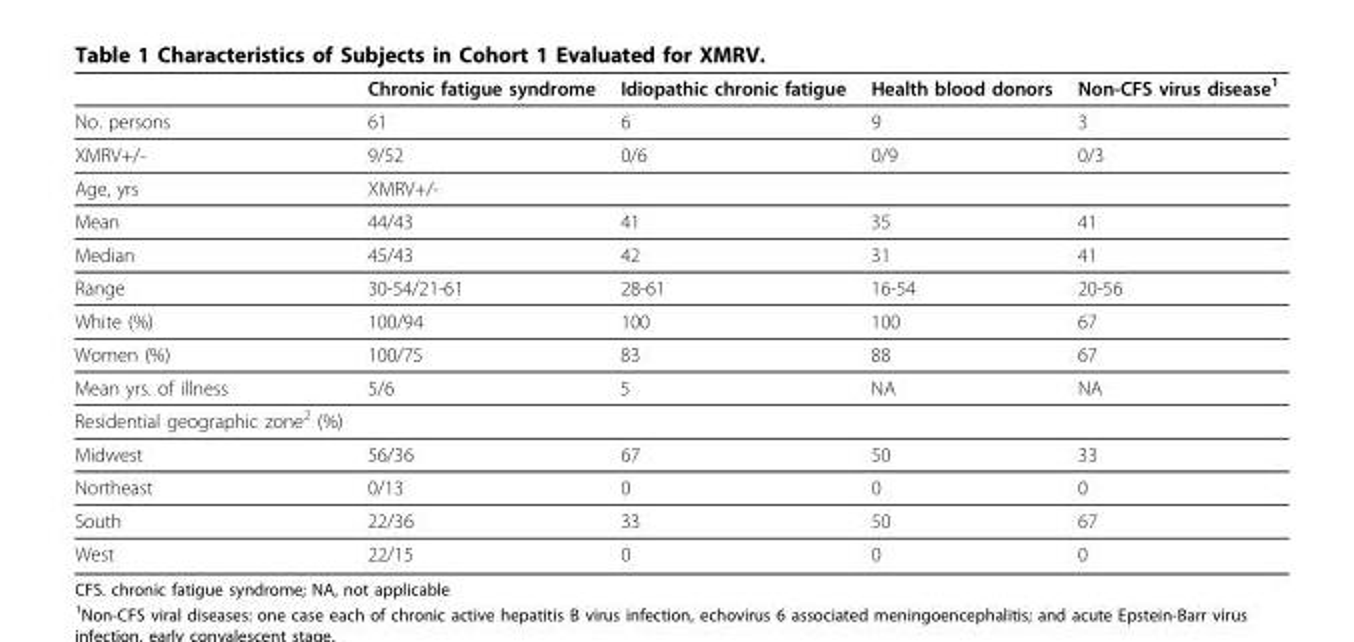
<table><thead><tr><td></td><td>Chronic fatigue syndrome</td><td>Idiopathic chronic fatigue</td><td>Health blood donors</td><td>Non-CFS virus disease<sup>1</sup></td></tr></thead><tbody><tr><td>No. persons</td><td>61</td><td>6</td><td>9</td><td>3</td></tr><tr><td>XMRV+/-</td><td>9/52</td><td>0/6</td><td>0/9</td><td>0/3</td></tr><tr><td>Age, yrs</td><td>XMRV+/-</td><td></td><td></td><td></td></tr><tr><td>Mean</td><td>44/43</td><td>41</td><td>35</td><td>41</td></tr><tr><td>Median</td><td>45/43</td><td>42</td><td>31</td><td>41</td></tr><tr><td>Range</td><td>30-54/21-61</td><td>28-61</td><td>16-54</td><td>20-56</td></tr><tr><td>White (%)</td><td>100/94</td><td>100</td><td>100</td><td>67</td></tr><tr><td>Women (%)</td><td>100/75</td><td>83</td><td>88</td><td>67</td></tr><tr><td>Mean yrs. of illness</td><td>5/6</td><td>5</td><td>NA</td><td>NA</td></tr><tr><td colspan="5">Residential geographic zone<sup>2</sup> (%)</td></tr><tr><td>Midwest</td><td>56/36</td><td>67</td><td>50</td><td>33</td></tr><tr><td>Northeast</td><td>0/13</td><td>0</td><td>0</td><td>0</td></tr><tr><td>South</td><td>22/36</td><td>33</td><td>50</td><td>67</td></tr><tr><td>West</td><td>22/15</td><td>0</td><td>0</td><td>0</td></tr></tbody></table>